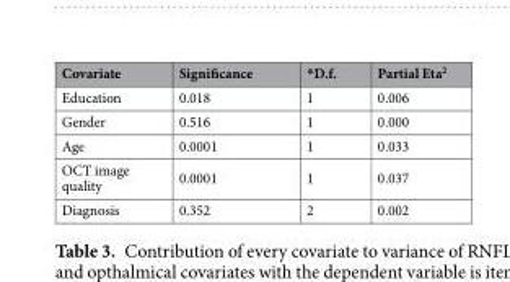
<table><thead><tr><td>Covariate</td><td>Significance</td><td>*D.f.</td><td>Partial Eta<sup>2</sup></td></tr></thead><tbody><tr><td>Education</td><td>0.018</td><td>1</td><td>0.006</td></tr><tr><td>Gender</td><td>0.516</td><td>1</td><td>0.000</td></tr><tr><td>Age</td><td>0.0001</td><td>1</td><td>0.033</td></tr><tr><td>OCT image quality</td><td>0.0001</td><td>1</td><td>0.037</td></tr><tr><td>Diagnosis</td><td>0.352</td><td>2</td><td>0.002</td></tr></tbody></table>